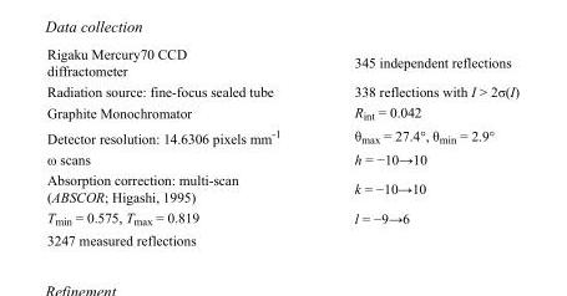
<table><tbody><tr><td>Rigaku Mercury70 CCD diffractometer</td><td>345 independent reflections</td></tr><tr><td>Radiation source: fine-focus sealed tube</td><td>338 reflections with I &gt; 2σ(I)</td></tr><tr><td>Graphite Monochromator</td><td>R<sub>int</sub> = 0.042</td></tr><tr><td>Detector resolution: 14.6306 pixels mm<sup>-1</sup></td><td>θ<sub>max</sub> = 27.4°, θ<sub>min</sub> = 2.9°</td></tr><tr><td>ω scans</td><td>h = −10→10</td></tr><tr><td>Absorption correction: multi-scan (ABSCOR; Higashi, 1995)</td><td>k = −10→10</td></tr><tr><td>T<sub>min</sub> = 0.575, T<sub>max</sub> = 0.819</td><td>l = −9→6</td></tr><tr><td>3247 measured reflections</td><td></td></tr></tbody></table>